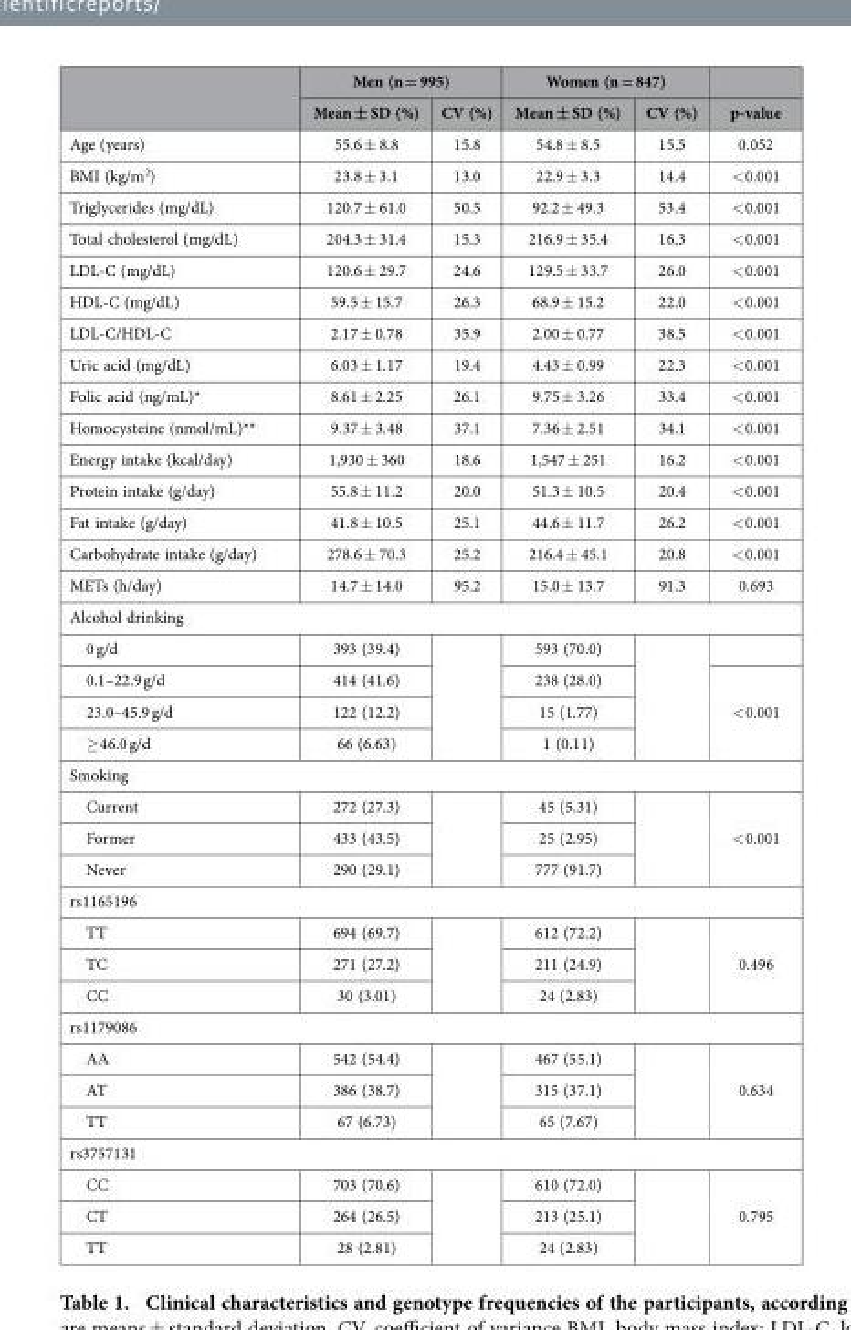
<table><thead><tr><td rowspan="2"></td><td colspan="2">Men (n = 995)</td><td colspan="2">Women (n = 847)</td><td rowspan="2">p-value</td></tr><tr><td>Mean ± SD (%)</td><td>CV (%)</td><td>Mean ± SD (%)</td><td>CV (%)</td></tr></thead><tbody><tr><td>Age (years)</td><td>55.6 ± 8.8</td><td>15.8</td><td>54.8 ± 8.5</td><td>15.5</td><td>0.052</td></tr><tr><td>BMI (kg/m<sup>2</sup>)</td><td>23.8 ± 3.1</td><td>13.0</td><td>22.9 ± 3.3</td><td>14.4</td><td>&lt; 0.001</td></tr><tr><td>Triglycerides (mg/dL)</td><td>120.7 ± 61.0</td><td>50.5</td><td>92.2 ± 49.3</td><td>53.4</td><td>&lt; 0.001</td></tr><tr><td>Total cholesterol (mg/dL)</td><td>204.3 ± 31.4</td><td>15.3</td><td>216.9 ± 35.4</td><td>16.3</td><td>&lt; 0.001</td></tr><tr><td>LDL-C (mg/dL)</td><td>120.6 ± 29.7</td><td>24.6</td><td>129.5 ± 33.7</td><td>26.0</td><td>&lt; 0.001</td></tr><tr><td>HDL-C (mg/dL)</td><td>59.5 ± 15.7</td><td>26.3</td><td>68.9 ± 15.2</td><td>22.0</td><td>&lt; 0.001</td></tr><tr><td>LDL-C/HDL-C</td><td>2.17 ± 0.78</td><td>35.9</td><td>2.00 ± 0.77</td><td>38.5</td><td>&lt; 0.001</td></tr><tr><td>Uric acid (mg/dL)</td><td>6.03 ± 1.17</td><td>19.4</td><td>4.43 ± 0.99</td><td>22.3</td><td>&lt; 0.001</td></tr><tr><td>Folic acid (ng/mL)*</td><td>8.61 ± 2.25</td><td>26.1</td><td>9.75 ± 3.26</td><td>33.4</td><td>&lt; 0.001</td></tr><tr><td>Homocysteine (nmol/mL)**</td><td>9.37 ± 3.48</td><td>37.1</td><td>7.36 ± 2.51</td><td>34.1</td><td>&lt; 0.001</td></tr><tr><td>Energy intake (kcal/day)</td><td>1,930 ± 360</td><td>18.6</td><td>1,547 ± 251</td><td>16.2</td><td>&lt; 0.001</td></tr><tr><td>Protein intake (g/day)</td><td>55.8 ± 11.2</td><td>20.0</td><td>51.3 ± 10.5</td><td>20.4</td><td>&lt; 0.001</td></tr><tr><td>Fat intake (g/day)</td><td>41.8 ± 10.5</td><td>25.1</td><td>44.6 ± 11.7</td><td>26.2</td><td>&lt; 0.001</td></tr><tr><td>Carbohydrate intake (g/day)</td><td>278.6 ± 70.3</td><td>25.2</td><td>216.4 ± 45.1</td><td>20.8</td><td>&lt; 0.001</td></tr><tr><td>METs (h/day)</td><td>14.7 ± 14.0</td><td>95.2</td><td>15.0 ± 13.7</td><td>91.3</td><td>0.693</td></tr><tr><td colspan="6">Alcohol drinking</td></tr><tr><td>0 g/d</td><td>393 (39.4)</td><td rowspan="4"></td><td>593 (70.0)</td><td rowspan="4"></td><td></td></tr><tr><td>0.1–22.9 g/d</td><td>414 (41.6)</td><td>238 (28.0)</td><td rowspan="3">&lt; 0.001</td></tr><tr><td>23.0–45.9 g/d</td><td>122 (12.2)</td><td>15 (1.77)</td></tr><tr><td>≥ 46.0 g/d</td><td>66 (6.63)</td><td>1 (0.11)</td></tr><tr><td colspan="6">Smoking</td></tr><tr><td>Current</td><td>272 (27.3)</td><td rowspan="3"></td><td>45 (5.31)</td><td rowspan="3"></td><td rowspan="3">&lt; 0.001</td></tr><tr><td>Former</td><td>433 (43.5)</td><td>25 (2.95)</td></tr><tr><td>Never</td><td>290 (29.1)</td><td>777 (91.7)</td></tr><tr><td colspan="6">rs1165196</td></tr><tr><td>TT</td><td>694 (69.7)</td><td rowspan="3"></td><td>612 (72.2)</td><td rowspan="3"></td><td rowspan="3">0.496</td></tr><tr><td>TC</td><td>271 (27.2)</td><td>211 (24.9)</td></tr><tr><td>CC</td><td>30 (3.01)</td><td>24 (2.83)</td></tr><tr><td colspan="6">rs1179086</td></tr><tr><td>AA</td><td>542 (54.4)</td><td rowspan="3"></td><td>467 (55.1)</td><td rowspan="3"></td><td rowspan="3">0.634</td></tr><tr><td>AT</td><td>386 (38.7)</td><td>315 (37.1)</td></tr><tr><td>TT</td><td>67 (6.73)</td><td>65 (7.67)</td></tr><tr><td colspan="6">rs3757131</td></tr><tr><td>CC</td><td>703 (70.6)</td><td rowspan="3"></td><td>610 (72.0)</td><td rowspan="3"></td><td rowspan="3">0.795</td></tr><tr><td>CT</td><td>264 (26.5)</td><td>213 (25.1)</td></tr><tr><td>TT</td><td>28 (2.81)</td><td>24 (2.83)</td></tr></tbody></table>